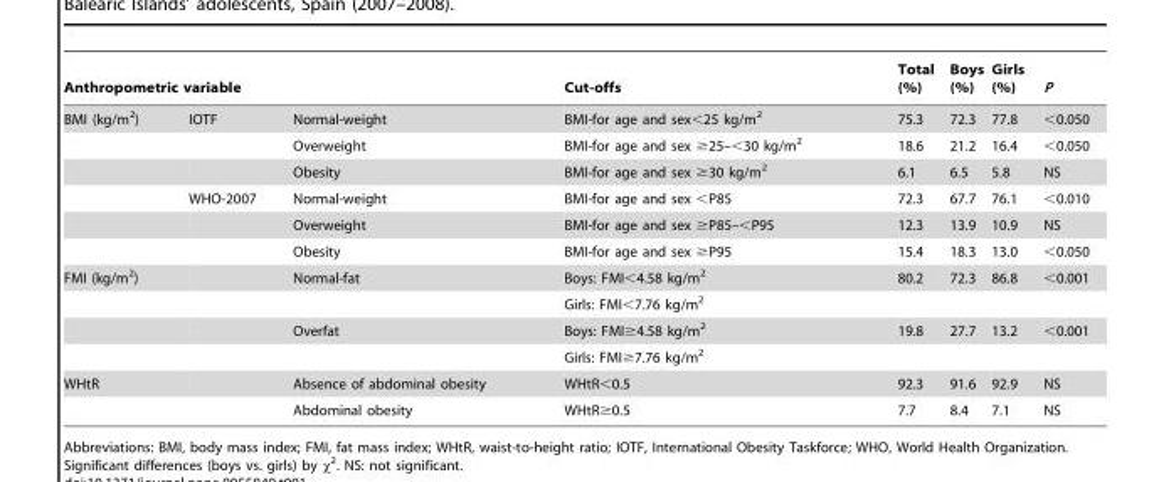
<table><thead><tr><td colspan="3">Anthropometric variable</td><td rowspan="2">Cut-offs BMI-for age and sex&lt;25 kg/m<sup>2</sup></td><td rowspan="2">Total (%) 75.3</td><td rowspan="2">Boys (%) 72.3</td><td rowspan="2">Girls (%) 77.8</td><td rowspan="2">P &lt;0.050</td></tr><tr><td>BMI (kg/m<sup>2</sup>)</td><td>IOTF</td><td>Normal-weight</td></tr></thead><tbody><tr><td></td><td></td><td>Overweight</td><td>BMI-for age and sex ≥25–&lt;30 kg/m<sup>2</sup></td><td>18.6</td><td>21.2</td><td>16.4</td><td>&lt;0.050</td></tr><tr><td></td><td></td><td>Obesity</td><td>BMI-for age and sex ≥30 kg/m<sup>2</sup></td><td>6.1</td><td>6.5</td><td>5.8</td><td>NS</td></tr><tr><td></td><td>WHO-2007</td><td>Normal-weight</td><td>BMI-for age and sex &lt;P85</td><td>72.3</td><td>67.7</td><td>76.1</td><td>&lt;0.010</td></tr><tr><td></td><td></td><td>Overweight</td><td>BMI-for age and sex ≥P85–&lt;P95</td><td>12.3</td><td>13.9</td><td>10.9</td><td>NS</td></tr><tr><td></td><td></td><td>Obesity</td><td>BMI-for age and sex ≥P95</td><td>15.4</td><td>18.3</td><td>13.0</td><td>&lt;0.050</td></tr><tr><td rowspan="4">FMI (kg/m<sup>2</sup>)</td><td></td><td>Normal-fat</td><td>Boys: FMI&lt;4.58 kg/m<sup>2</sup></td><td>80.2</td><td>72.3</td><td>86.8</td><td>&lt;0.001</td></tr><tr><td></td><td></td><td>Girls: FMI&lt;7.76 kg/m<sup>2</sup></td><td></td><td></td><td></td><td></td></tr><tr><td></td><td>Overfat</td><td>Boys: FMI≥4.58 kg/m<sup>2</sup></td><td>19.8</td><td>27.7</td><td>13.2</td><td>&lt;0.001</td></tr><tr><td></td><td></td><td>Girls: FMI≥7.76 kg/m<sup>2</sup></td><td></td><td></td><td></td><td></td></tr><tr><td rowspan="2">WHtR</td><td></td><td>Absence of abdominal obesity</td><td>WHtR&lt;0.5</td><td>92.3</td><td>91.6</td><td>92.9</td><td>NS</td></tr><tr><td></td><td>Abdominal obesity</td><td>WHtR≥0.5</td><td>7.7</td><td>8.4</td><td>7.1</td><td>NS</td></tr></tbody></table>